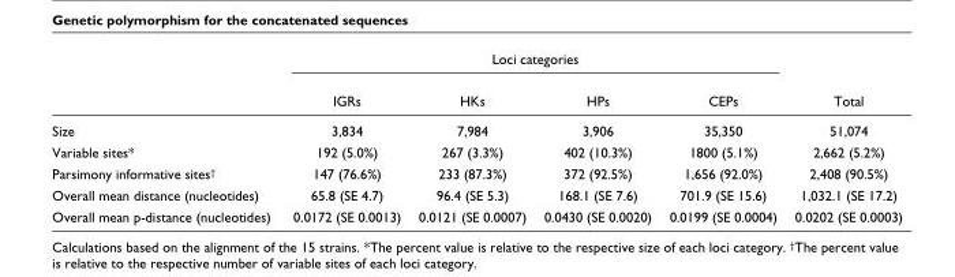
<table><thead><tr><td rowspan="2"></td><td colspan="4">Loci categories</td><td rowspan="2">Total</td></tr><tr><td>IGRs</td><td>HKs</td><td>HPs</td><td>CEPs</td></tr></thead><tbody><tr><td>Size</td><td>3,834</td><td>7,984</td><td>3,906</td><td>35,350</td><td>51,074</td></tr><tr><td>Variable sites*</td><td>192 (5.0%)</td><td>267 (3.3%)</td><td>402 (10.3%)</td><td>1800 (5.1%)</td><td>2,662 (5.2%)</td></tr><tr><td>Parsimony informative sites<sup>†</sup></td><td>147 (76.6%)</td><td>233 (87.3%)</td><td>372 (92.5%)</td><td>1,656 (92.0%)</td><td>2,408 (90.5%)</td></tr><tr><td>Overall mean distance (nucleotides)</td><td>65.8 (SE 4.7)</td><td>96.4 (SE 5.3)</td><td>168.1 (SE 7.6)</td><td>701.9 (SE 15.6)</td><td>1,032.1 (SE 17.2)</td></tr><tr><td>Overall mean p-distance (nucleotides)</td><td>0.0172 (SE 0.0013)</td><td>0.0121 (SE 0.0007)</td><td>0.0430 (SE 0.0020)</td><td>0.0199 (SE 0.0004)</td><td>0.0202 (SE 0.0003)</td></tr></tbody></table>